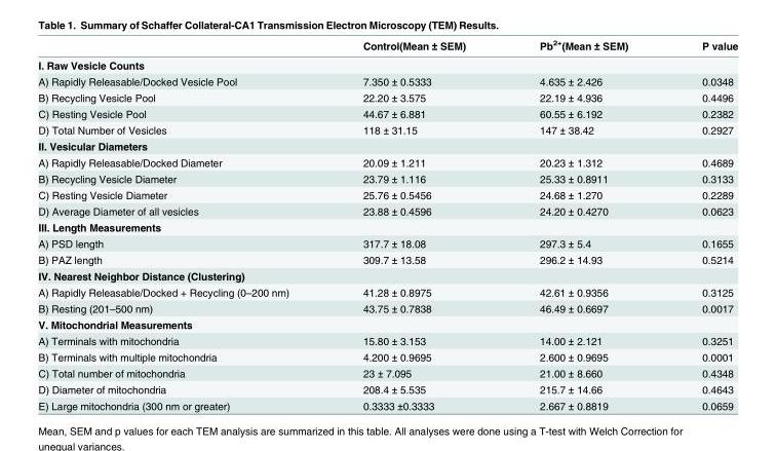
<table><thead><tr><td></td><td>Control(Mean ± SEM)</td><td>Pb<sup>2+</sup>(Mean ± SEM)</td><td>P value</td></tr></thead><tbody><tr><td colspan="4">I. Raw Vesicle Counts</td></tr><tr><td>A) Rapidly Releasable/Docked Vesicle Pool</td><td>7.350 ± 0.5333</td><td>4.635 ± 2.426</td><td>0.0348</td></tr><tr><td>B) Recycling Vesicle Pool</td><td>22.20 ± 3.575</td><td>22.19 ± 4.936</td><td>0.4496</td></tr><tr><td>C) Resting Vesicle Pool</td><td>44.67 ± 6.881</td><td>60.55 ± 6.192</td><td>0.2382</td></tr><tr><td>D) Total Number of Vesicles</td><td>118 ± 31.15</td><td>147 ± 38.42</td><td>0.2927</td></tr><tr><td colspan="4">II. Vesicular Diameters</td></tr><tr><td>A) Rapidly Releasable/Docked Diameter</td><td>20.09 ± 1.211</td><td>20.23 ± 1.312</td><td>0.4689</td></tr><tr><td>B) Recycling Vesicle Diameter</td><td>23.79 ± 1.116</td><td>25.33 ± 0.8911</td><td>0.3133</td></tr><tr><td>C) Resting Vesicle Diameter</td><td>25.76 ± 0.5456</td><td>24.68 ± 1.270</td><td>0.2289</td></tr><tr><td>D) Average Diameter of all vesicles</td><td>23.88 ± 0.4596</td><td>24.20 ± 0.4270</td><td>0.0623</td></tr><tr><td colspan="4">III. Length Measurements</td></tr><tr><td>A) PSD length</td><td>317.7 ± 18.08</td><td>297.3 ± 5.4</td><td>0.1655</td></tr><tr><td>B) PAZ length</td><td>309.7 ± 13.58</td><td>296.2 ± 14.93</td><td>0.5214</td></tr><tr><td colspan="4">IV. Nearest Neighbor Distance (Clustering)</td></tr><tr><td>A) Rapidly Releasable/Docked + Recycling (0–200 nm)</td><td>41.28 ± 0.8975</td><td>42.61 ± 0.9356</td><td>0.3125</td></tr><tr><td>B) Resting (201–500 nm)</td><td>43.75 ± 0.7838</td><td>46.49 ± 0.6697</td><td>0.0017</td></tr><tr><td colspan="4">V. Mitochondrial Measurements</td></tr><tr><td>A) Terminals with mitochondria</td><td>15.80 ± 3.153</td><td>14.00 ± 2.121</td><td>0.3251</td></tr><tr><td>B) Terminals with multiple mitochondria</td><td>4.200 ± 0.9695</td><td>2.600 ± 0.9695</td><td>0.0001</td></tr><tr><td>C) Total number of mitochondria</td><td>23 ± 7.095</td><td>21.00 ± 8.660</td><td>0.4348</td></tr><tr><td>D) Diameter of mitochondria</td><td>208.4 ± 5.535</td><td>215.7 ± 14.66</td><td>0.4643</td></tr><tr><td>E) Large mitochondria (300 nm or greater)</td><td>0.3333 ±0.3333</td><td>2.667 ± 0.8819</td><td>0.0659</td></tr></tbody></table>